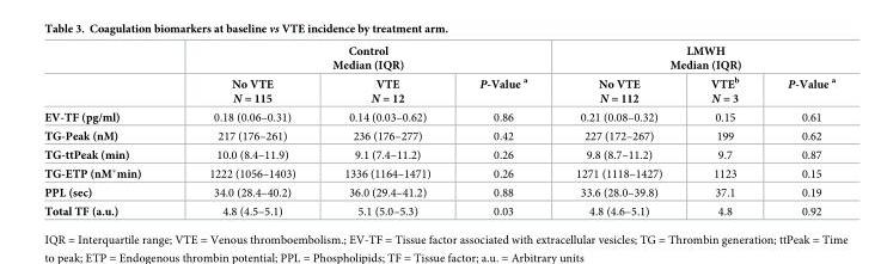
<table><thead><tr><td rowspan="2"></td><td colspan="3">Control Median (IQR)</td><td colspan="3">LMWH Median (IQR)</td></tr><tr><td>No VTE N = 115</td><td>VTE N = 12</td><td>P-Value <sup>a</sup></td><td>No VTE N = 112</td><td>VTE<sup>b</sup> N = 3</td><td>P-Value <sup>a</sup></td></tr></thead><tbody><tr><td>EV-TF (pg/ml)</td><td>0.18 (0.06–0.31)</td><td>0.14 (0.03–0.62)</td><td>0.86</td><td>0.21 (0.08–0.32)</td><td>0.15</td><td>0.61</td></tr><tr><td>TG-Peak (nM)</td><td>217 (176–261)</td><td>236 (176–277)</td><td>0.42</td><td>227 (172–267)</td><td>199</td><td>0.62</td></tr><tr><td>TG-ttPeak (min)</td><td>10.0 (8.4–11.9)</td><td>9.1 (7.4–11.2)</td><td>0.26</td><td>9.8 (8.7–11.2)</td><td>9.7</td><td>0.87</td></tr><tr><td>TG-ETP (nM*min)</td><td>1222 (1056–1403)</td><td>1336 (1164–1471)</td><td>0.26</td><td>1271 (1118–1427)</td><td>1123</td><td>0.15</td></tr><tr><td>PPL (sec)</td><td>34.0 (28.4–40.2)</td><td>36.0 (29.4–41.2)</td><td>0.88</td><td>33.6 (28.0–39.8)</td><td>37.1</td><td>0.19</td></tr><tr><td>Total TF (a.u.)</td><td>4.8 (4.5–5.1)</td><td>5.1 (5.0–5.3)</td><td>0.03</td><td>4.8 (4.6–5.1)</td><td>4.8</td><td>0.92</td></tr></tbody></table>